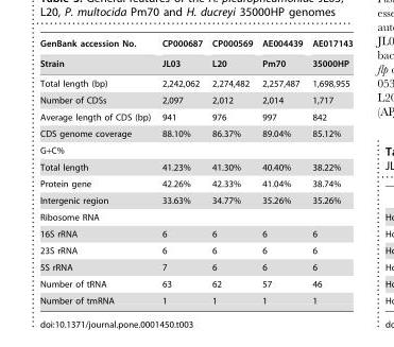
<table><thead><tr><td rowspan="2">GenBank accession No. Strain</td><td rowspan="2">CP000687 JL03</td><td rowspan="2">CP000569 L20</td><td rowspan="2">AE004439 Pm70</td><td rowspan="2">AE017143 35000HP</td></tr><tr></tr></thead><tbody><tr><td>Total length (bp)</td><td>2,242,062</td><td>2,274,482</td><td>2,257,487</td><td>1,698,955</td></tr><tr><td>Number of CDSs</td><td>2,097</td><td>2,012</td><td>2,014</td><td>1,717</td></tr><tr><td>Average length of CDS (bp)</td><td>941</td><td>976</td><td>997</td><td>842</td></tr><tr><td>CDS genome coverage</td><td>88.10%</td><td>86.37%</td><td>89.04%</td><td>85.12%</td></tr><tr><td colspan="5">G+C%</td></tr><tr><td>Total length</td><td>41.23%</td><td>41.30%</td><td>40.40%</td><td>38.22%</td></tr><tr><td>Protein gene</td><td>42.26%</td><td>42.33%</td><td>41.04%</td><td>38.74%</td></tr><tr><td>Intergenic region</td><td>33.63%</td><td>34.77%</td><td>35.26%</td><td>35.26%</td></tr><tr><td colspan="5">Ribosome RNA</td></tr><tr><td>16S rRNA</td><td>6</td><td>6</td><td>6</td><td>6</td></tr><tr><td>23S rRNA</td><td>6</td><td>6</td><td>6</td><td>6</td></tr><tr><td>5S rRNA</td><td>7</td><td>6</td><td>6</td><td>6</td></tr><tr><td>Number of tRNA</td><td>63</td><td>62</td><td>57</td><td>46</td></tr><tr><td>Number of tmRNA</td><td>1</td><td>1</td><td>1</td><td>1</td></tr></tbody></table>